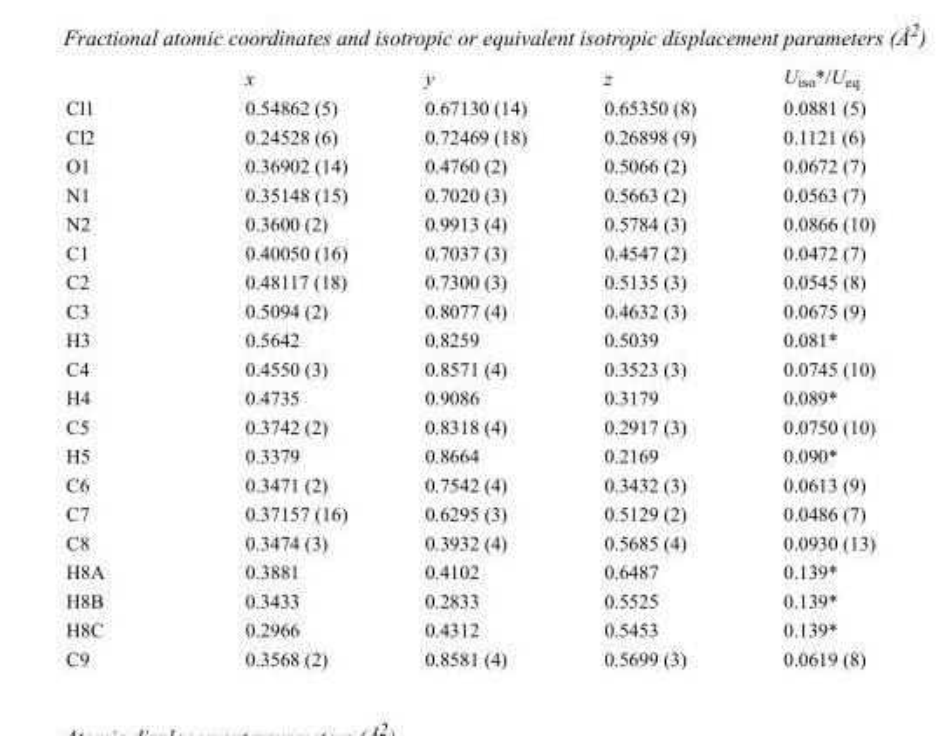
<table><thead><tr><td></td><td>x</td><td>y</td><td>z</td><td>U<sub>iso</sub>*/U<sub>eq</sub></td></tr></thead><tbody><tr><td>Cl1</td><td>0.54862 (5)</td><td>0.67130 (14)</td><td>0.65350 (8)</td><td>0.0881 (5)</td></tr><tr><td>Cl2</td><td>0.24528 (6)</td><td>0.72469 (18)</td><td>0.26898 (9)</td><td>0.1121 (6)</td></tr><tr><td>O1</td><td>0.36902 (14)</td><td>0.4760 (2)</td><td>0.5066 (2)</td><td>0.0672 (7)</td></tr><tr><td>N1</td><td>0.35148 (15)</td><td>0.7020 (3)</td><td>0.5663 (2)</td><td>0.0563 (7)</td></tr><tr><td>N2</td><td>0.3600 (2)</td><td>0.9913 (4)</td><td>0.5784 (3)</td><td>0.0866 (10)</td></tr><tr><td>C1</td><td>0.40050 (16)</td><td>0.7037 (3)</td><td>0.4547 (2)</td><td>0.0472 (7)</td></tr><tr><td>C2</td><td>0.48117 (18)</td><td>0.7300 (3)</td><td>0.5135 (3)</td><td>0.0545 (8)</td></tr><tr><td>C3</td><td>0.5094 (2)</td><td>0.8077 (4)</td><td>0.4632 (3)</td><td>0.0675 (9)</td></tr><tr><td>H3</td><td>0.5642</td><td>0.8259</td><td>0.5039</td><td>0.081*</td></tr><tr><td>C4</td><td>0.4550 (3)</td><td>0.8571 (4)</td><td>0.3523 (3)</td><td>0.0745 (10)</td></tr><tr><td>H4</td><td>0.4735</td><td>0.9086</td><td>0.3179</td><td>0.089*</td></tr><tr><td>C5</td><td>0.3742 (2)</td><td>0.8318 (4)</td><td>0.2917 (3)</td><td>0.0750 (10)</td></tr><tr><td>H5</td><td>0.3379</td><td>0.8664</td><td>0.2169</td><td>0.090*</td></tr><tr><td>C6</td><td>0.3471 (2)</td><td>0.7542 (4)</td><td>0.3432 (3)</td><td>0.0613 (9)</td></tr><tr><td>C7</td><td>0.37157 (16)</td><td>0.6295 (3)</td><td>0.5129 (2)</td><td>0.0486 (7)</td></tr><tr><td>C8</td><td>0.3474 (3)</td><td>0.3932 (4)</td><td>0.5685 (4)</td><td>0.0930 (13)</td></tr><tr><td>H8A</td><td>0.3881</td><td>0.4102</td><td>0.6487</td><td>0.139*</td></tr><tr><td>H8B</td><td>0.3433</td><td>0.2833</td><td>0.5525</td><td>0.139*</td></tr><tr><td>H8C</td><td>0.2966</td><td>0.4312</td><td>0.5453</td><td>0.139*</td></tr><tr><td>C9</td><td>0.3568 (2)</td><td>0.8581 (4)</td><td>0.5699 (3)</td><td>0.0619 (8)</td></tr></tbody></table>